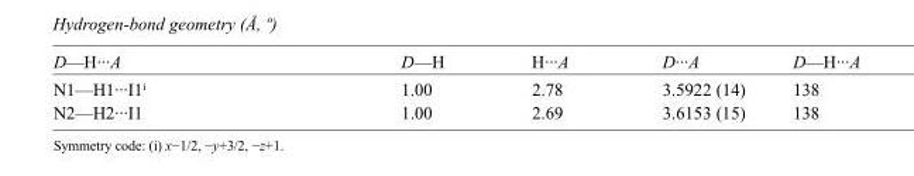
<table><tbody><tr><td>D—H···A</td><td>D—H</td><td>H···A</td><td>D···A</td><td>D—H···A</td></tr><tr><td>N1—H1···I1<sup>i</sup></td><td>1.00</td><td>2.78</td><td>3.5922 (14)</td><td>138</td></tr><tr><td>N2—H2···I1</td><td>1.00</td><td>2.69</td><td>3.6153 (15)</td><td>138</td></tr></tbody></table>